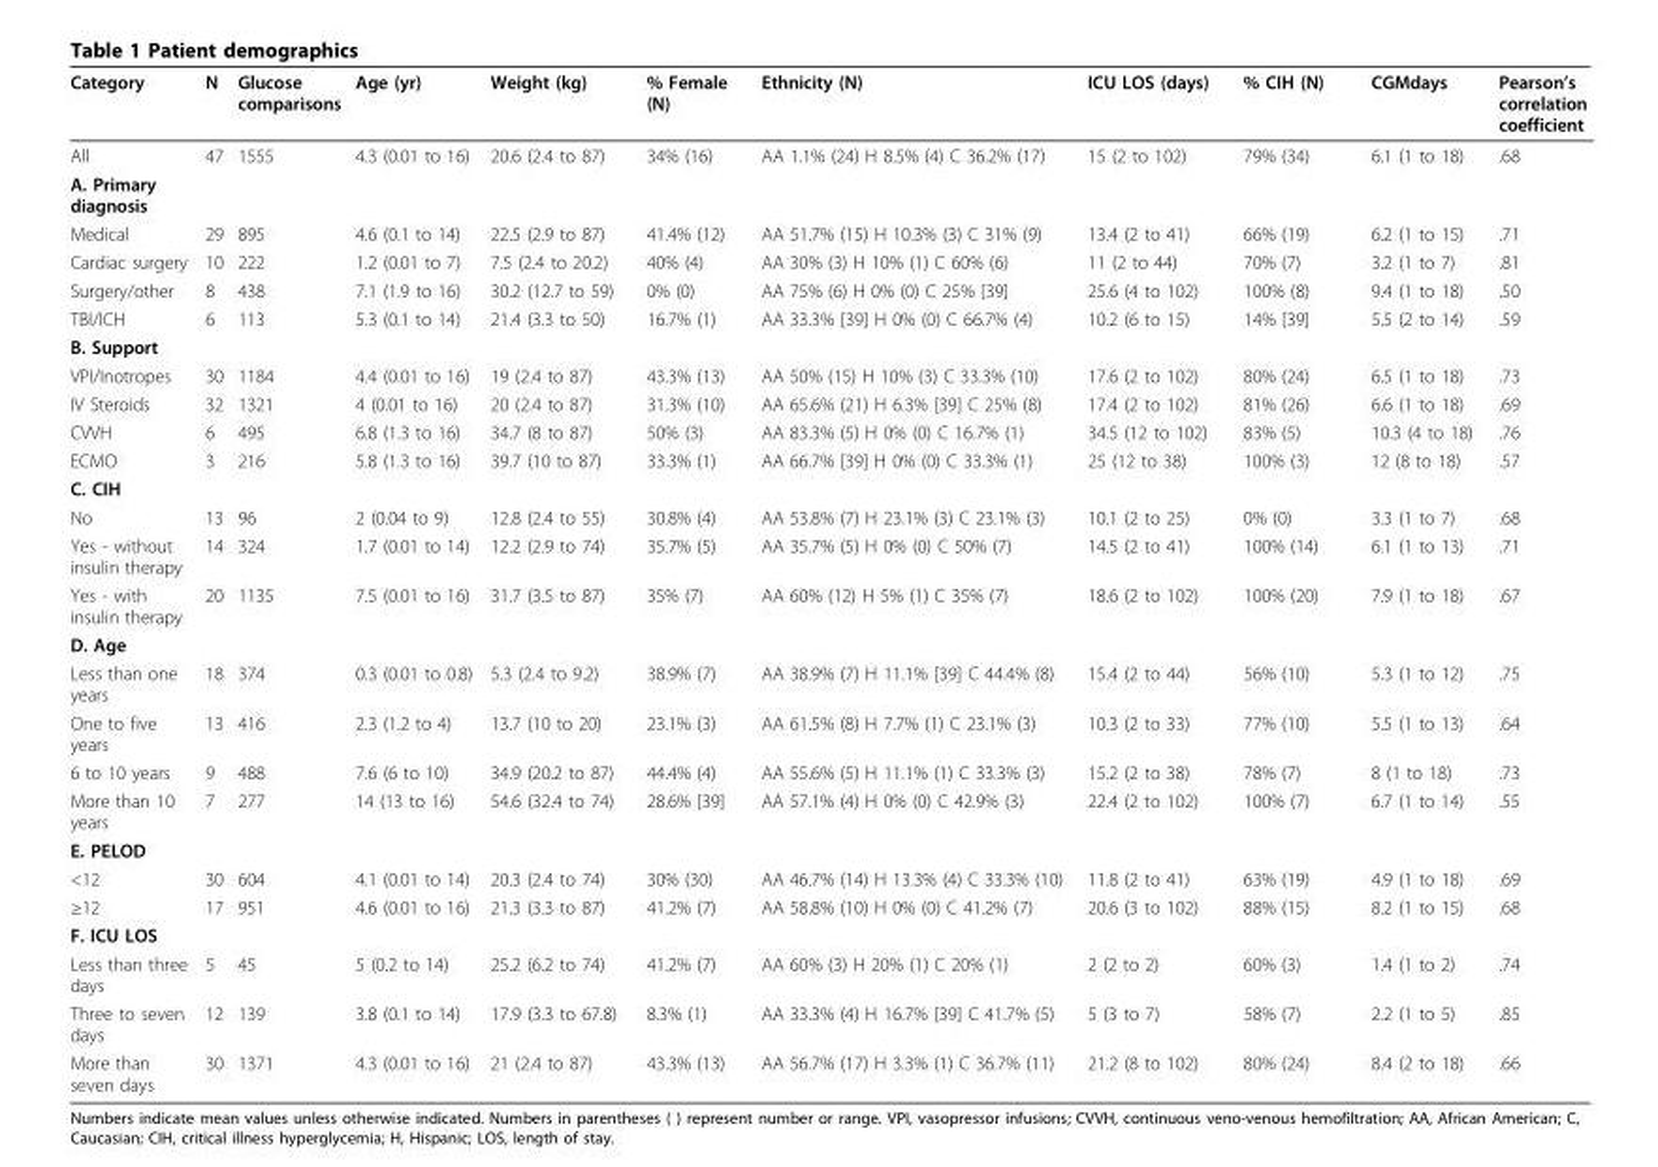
<table><thead><tr><td>Category</td><td>N</td><td>Glucose comparisons</td><td>Age (yr)</td><td>Weight (kg)</td><td>% Female (N)</td><td>Ethnicity (N)</td><td>ICU LOS (days)</td><td>% CIH (N)</td><td>CGMdays</td><td>Pearson’s correlation coefficient</td></tr></thead><tbody><tr><td>All</td><td>47</td><td>1555</td><td>4.3 (0.01 to 16)</td><td>20.6 (2.4 to 87)</td><td>34% (16)</td><td>AA 1.1% (24) H 8.5% (4) C 36.2% (17)</td><td>15 (2 to 102)</td><td>79% (34)</td><td>6.1 (1 to 18)</td><td>.68</td></tr><tr><td colspan="11">A. Primary diagnosis</td></tr><tr><td>Medical</td><td>29</td><td>895</td><td>4.6 (0.1 to 14)</td><td>22.5 (2.9 to 87)</td><td>41.4% (12)</td><td>AA 51.7% (15) H 10.3% (3) C 31% (9)</td><td>13.4 (2 to 41)</td><td>66% (19)</td><td>6.2 (1 to 15)</td><td>.71</td></tr><tr><td>Cardiac surgery</td><td>10</td><td>222</td><td>1.2 (0.01 to 7)</td><td>7.5 (2.4 to 20.2)</td><td>40% (4)</td><td>AA 30% (3) H 10% (1) C 60% (6)</td><td>11 (2 to 44)</td><td>70% (7)</td><td>3.2 (1 to 7)</td><td>.81</td></tr><tr><td>Surgery/other</td><td>8</td><td>438</td><td>7.1 (1.9 to 16)</td><td>30.2 (12.7 to 59)</td><td>0% (0)</td><td>AA 75% (6) H 0% (0) C 25% [39]</td><td>25.6 (4 to 102)</td><td>100% (8)</td><td>9.4 (1 to 18)</td><td>.50</td></tr><tr><td>TBI/ICH</td><td>6</td><td>113</td><td>5.3 (0.1 to 14)</td><td>21.4 (3.3 to 50)</td><td>16.7% (1)</td><td>AA 33.3% [39] H 0% (0) C 66.7% (4)</td><td>10.2 (6 to 15)</td><td>14% [39]</td><td>5.5 (2 to 14)</td><td>.59</td></tr><tr><td colspan="11">B. Support</td></tr><tr><td>VPI/Inotropes</td><td>30</td><td>1184</td><td>4.4 (0.01 to 16)</td><td>19 (2.4 to 87)</td><td>43.3% (13)</td><td>AA 50% (15) H 10% (3) C 33.3% (10)</td><td>17.6 (2 to 102)</td><td>80% (24)</td><td>6.5 (1 to 18)</td><td>.73</td></tr><tr><td>IV Steroids</td><td>32</td><td>1321</td><td>4 (0.01 to 16)</td><td>20 (2.4 to 87)</td><td>31.3% (10)</td><td>AA 65.6% (21) H 6.3% [39] C 25% (8)</td><td>17.4 (2 to 102)</td><td>81% (26)</td><td>6.6 (1 to 18)</td><td>.69</td></tr><tr><td>CVVH</td><td>6</td><td>495</td><td>6.8 (1.3 to 16)</td><td>34.7 (8 to 87)</td><td>50% (3)</td><td>AA 83.3% (5) H 0% (0) C 16.7% (1)</td><td>34.5 (12 to 102)</td><td>83% (5)</td><td>10.3 (4 to 18)</td><td>.76</td></tr><tr><td>ECMO</td><td>3</td><td>216</td><td>5.8 (1.3 to 16)</td><td>39.7 (10 to 87)</td><td>33.3% (1)</td><td>AA 66.7% [39] H 0% (0) C 33.3% (1)</td><td>25 (12 to 38)</td><td>100% (3)</td><td>12 (8 to 18)</td><td>.57</td></tr><tr><td colspan="11">C. CIH</td></tr><tr><td>No</td><td>13</td><td>96</td><td>2 (0.04 to 9)</td><td>12.8 (2.4 to 55)</td><td>30.8% (4)</td><td>AA 53.8% (7) H 23.1% (3) C 23.1% (3)</td><td>10.1 (2 to 25)</td><td>0% (0)</td><td>3.3 (1 to 7)</td><td>.68</td></tr><tr><td>Yes - without insulin therapy</td><td>14</td><td>324</td><td>1.7 (0.01 to 14)</td><td>12.2 (2.9 to 74)</td><td>35.7% (5)</td><td>AA 35.7% (5) H 0% (0) C 50% (7)</td><td>14.5 (2 to 41)</td><td>100% (14)</td><td>6.1 (1 to 13)</td><td>.71</td></tr><tr><td>Yes - with insulin therapy</td><td>20</td><td>1135</td><td>7.5 (0.01 to 16)</td><td>31.7 (3.5 to 87)</td><td>35% (7)</td><td>AA 60% (12) H 5% (1) C 35% (7)</td><td>18.6 (2 to 102)</td><td>100% (20)</td><td>7.9 (1 to 18)</td><td>.67</td></tr><tr><td colspan="11">D. Age</td></tr><tr><td>Less than one years</td><td>18</td><td>374</td><td>0.3 (0.01 to 0.8)</td><td>5.3 (2.4 to 9.2)</td><td>38.9% (7)</td><td>AA 38.9% (7) H 11.1% [39] C 44.4% (8)</td><td>15.4 (2 to 44)</td><td>56% (10)</td><td>5.3 (1 to 12)</td><td>.75</td></tr><tr><td>One to five years</td><td>13</td><td>416</td><td>2.3 (1.2 to 4)</td><td>13.7 (10 to 20)</td><td>23.1% (3)</td><td>AA 61.5% (8) H 7.7% (1) C 23.1% (3)</td><td>10.3 (2 to 33)</td><td>77% (10)</td><td>5.5 (1 to 13)</td><td>.64</td></tr><tr><td>6 to 10 years</td><td>9</td><td>488</td><td>7.6 (6 to 10)</td><td>34.9 (20.2 to 87)</td><td>44.4% (4)</td><td>AA 55.6% (5) H 11.1% (1) C 33.3% (3)</td><td>15.2 (2 to 38)</td><td>78% (7)</td><td>8 (1 to 18)</td><td>.73</td></tr><tr><td>More than 10 years</td><td>7</td><td>277</td><td>14 (13 to 16)</td><td>54.6 (32.4 to 74)</td><td>28.6% [39]</td><td>AA 57.1% (4) H 0% (0) C 42.9% (3)</td><td>22.4 (2 to 102)</td><td>100% (7)</td><td>6.7 (1 to 14)</td><td>.55</td></tr><tr><td colspan="11">E. PELOD</td></tr><tr><td>&lt;12</td><td>30</td><td>604</td><td>4.1 (0.01 to 14)</td><td>20.3 (2.4 to 74)</td><td>30% (30)</td><td>AA 46.7% (14) H 13.3% (4) C 33.3% (10)</td><td>11.8 (2 to 41)</td><td>63% (19)</td><td>4.9 (1 to 18)</td><td>.69</td></tr><tr><td>≥12</td><td>17</td><td>951</td><td>4.6 (0.01 to 16)</td><td>21.3 (3.3 to 87)</td><td>41.2% (7)</td><td>AA 58.8% (10) H 0% (0) C 41.2% (7)</td><td>20.6 (3 to 102)</td><td>88% (15)</td><td>8.2 (1 to 15)</td><td>.68</td></tr><tr><td colspan="11">F. ICU LOS</td></tr><tr><td>Less than three days</td><td>5</td><td>45</td><td>5 (0.2 to 14)</td><td>25.2 (6.2 to 74)</td><td>41.2% (7)</td><td>AA 60% (3) H 20% (1) C 20% (1)</td><td>2 (2 to 2)</td><td>60% (3)</td><td>1.4 (1 to 2)</td><td>.74</td></tr><tr><td>Three to seven days</td><td>12</td><td>139</td><td>3.8 (0.1 to 14)</td><td>17.9 (3.3 to 67.8)</td><td>8.3% (1)</td><td>AA 33.3% (4) H 16.7% [39] C 41.7% (5)</td><td>5 (3 to 7)</td><td>58% (7)</td><td>2.2 (1 to 5)</td><td>.85</td></tr><tr><td>More than seven days</td><td>30</td><td>1371</td><td>4.3 (0.01 to 16)</td><td>21 (2.4 to 87)</td><td>43.3% (13)</td><td>AA 56.7% (17) H 3.3% (1) C 36.7% (11)</td><td>21.2 (8 to 102)</td><td>80% (24)</td><td>8.4 (2 to 18)</td><td>.66</td></tr></tbody></table>